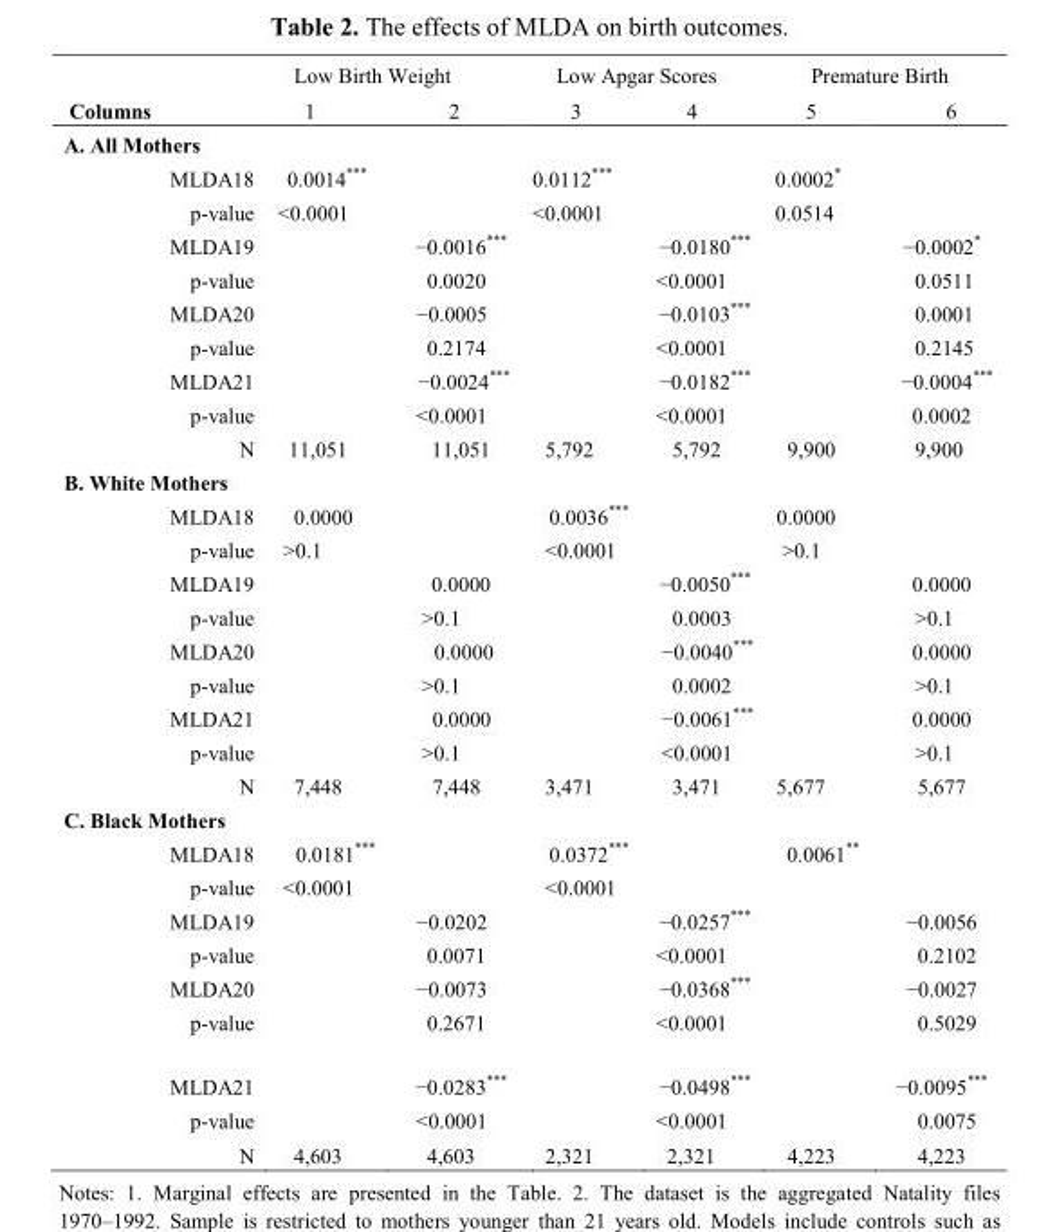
<table><thead><tr><td rowspan="2">Columns</td><td colspan="2">Low Birth Weight</td><td colspan="2">Low Apgar Scores</td><td colspan="2">Premature Birth</td></tr><tr><td>1</td><td>2</td><td>3</td><td>4</td><td>5</td><td>6</td></tr></thead><tbody><tr><td colspan="7">A. All Mothers</td></tr><tr><td>MLDA18</td><td>0.0014***</td><td></td><td>0.0112***</td><td></td><td>0.0002*</td><td></td></tr><tr><td>p-value</td><td>&lt;0.0001</td><td></td><td>&lt;0.0001</td><td></td><td>0.0514</td><td></td></tr><tr><td>MLDA19</td><td></td><td>−0.0016***</td><td></td><td>−0.0180***</td><td></td><td>−0.0002*</td></tr><tr><td>p-value</td><td></td><td>0.0020</td><td></td><td>&lt;0.0001</td><td></td><td>0.0511</td></tr><tr><td>MLDA20</td><td></td><td>−0.0005</td><td></td><td>−0.0103***</td><td></td><td>0.0001</td></tr><tr><td>p-value</td><td></td><td>0.2174</td><td></td><td>&lt;0.0001</td><td></td><td>0.2145</td></tr><tr><td>MLDA21</td><td></td><td>−0.0024***</td><td></td><td>−0.0182***</td><td></td><td>−0.0004***</td></tr><tr><td>p-value</td><td></td><td>&lt;0.0001</td><td></td><td>&lt;0.0001</td><td></td><td>0.0002</td></tr><tr><td>N</td><td>11,051</td><td>11,051</td><td>5,792</td><td>5,792</td><td>9,900</td><td>9,900</td></tr><tr><td colspan="7">B. White Mothers</td></tr><tr><td>MLDA18</td><td>0.0000</td><td></td><td>0.0036***</td><td></td><td>0.0000</td><td></td></tr><tr><td>p-value</td><td>&gt;0.1</td><td></td><td>&lt;0.0001</td><td></td><td>&gt;0.1</td><td></td></tr><tr><td>MLDA19</td><td></td><td>0.0000</td><td></td><td>−0.0050***</td><td></td><td>0.0000</td></tr><tr><td>p-value</td><td></td><td>&gt;0.1</td><td></td><td>0.0003</td><td></td><td>&gt;0.1</td></tr><tr><td>MLDA20</td><td></td><td>0.0000</td><td></td><td>−0.0040***</td><td></td><td>0.0000</td></tr><tr><td>p-value</td><td></td><td>&gt;0.1</td><td></td><td>0.0002</td><td></td><td>&gt;0.1</td></tr><tr><td>MLDA21</td><td></td><td>0.0000</td><td></td><td>−0.0061***</td><td></td><td>0.0000</td></tr><tr><td>p-value</td><td></td><td>&gt;0.1</td><td></td><td>&lt;0.0001</td><td></td><td>&gt;0.1</td></tr><tr><td>N</td><td>7,448</td><td>7,448</td><td>3,471</td><td>3,471</td><td>5,677</td><td>5,677</td></tr><tr><td colspan="7">C. Black Mothers</td></tr><tr><td>MLDA18</td><td>0.0181***</td><td></td><td>0.0372***</td><td></td><td>0.0061**</td><td></td></tr><tr><td>p-value</td><td>&lt;0.0001</td><td></td><td>&lt;0.0001</td><td></td><td></td><td></td></tr><tr><td>MLDA19</td><td></td><td>−0.0202</td><td></td><td>−0.0257***</td><td></td><td>−0.0056</td></tr><tr><td>p-value</td><td></td><td>0.0071</td><td></td><td>&lt;0.0001</td><td></td><td>0.2102</td></tr><tr><td>MLDA20</td><td></td><td>−0.0073</td><td></td><td>−0.0368***</td><td></td><td>−0.0027</td></tr><tr><td>p-value</td><td></td><td>0.2671</td><td></td><td>&lt;0.0001</td><td></td><td>0.5029</td></tr><tr><td>MLDA21</td><td></td><td>−0.0283***</td><td></td><td>−0.0498***</td><td></td><td>−0.0095***</td></tr><tr><td>p-value</td><td></td><td>&lt;0.0001</td><td></td><td>&lt;0.0001</td><td></td><td>0.0075</td></tr><tr><td>N</td><td>4,603</td><td>4,603</td><td>2,321</td><td>2,321</td><td>4,223</td><td>4,223</td></tr></tbody></table>